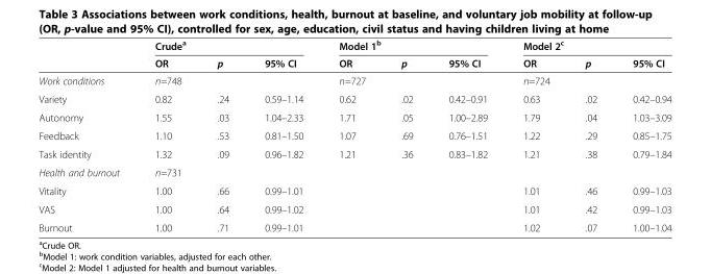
<table><thead><tr><td rowspan="2"></td><td colspan="3">Crude<sup>a</sup></td><td colspan="3">Model 1<sup>b</sup></td><td colspan="3">Model 2<sup>c</sup></td></tr><tr><td>OR</td><td>p</td><td>95% CI</td><td>OR</td><td>p</td><td>95% CI</td><td>OR</td><td>p</td><td>95% CI</td></tr></thead><tbody><tr><td>Work conditions</td><td>n=748</td><td></td><td></td><td>n=727</td><td></td><td></td><td>n=724</td><td></td><td></td></tr><tr><td>Variety</td><td>0.82</td><td>.24</td><td>0.59–1.14</td><td>0.62</td><td>.02</td><td>0.42–0.91</td><td>0.63</td><td>.02</td><td>0.42–0.94</td></tr><tr><td>Autonomy</td><td>1.55</td><td>.03</td><td>1.04–2.33</td><td>1.71</td><td>.05</td><td>1.00–2.89</td><td>1.79</td><td>.04</td><td>1.03–3.09</td></tr><tr><td>Feedback</td><td>1.10</td><td>.53</td><td>0.81–1.50</td><td>1.07</td><td>.69</td><td>0.76–1.51</td><td>1.22</td><td>.29</td><td>0.85–1.75</td></tr><tr><td>Task identity</td><td>1.32</td><td>.09</td><td>0.96–1.82</td><td>1.21</td><td>.36</td><td>0.83–1.82</td><td>1.21</td><td>.38</td><td>0.79–1.84</td></tr><tr><td>Health and burnout</td><td>n=731</td><td></td><td></td><td></td><td></td><td></td><td></td><td></td><td></td></tr><tr><td>Vitality</td><td>1.00</td><td>.66</td><td>0.99–1.01</td><td></td><td></td><td></td><td>1.01</td><td>.46</td><td>0.99–1.03</td></tr><tr><td>VAS</td><td>1.00</td><td>.64</td><td>0.99–1.02</td><td></td><td></td><td></td><td>1.01</td><td>.42</td><td>0.99–1.03</td></tr><tr><td>Burnout</td><td>1.00</td><td>.71</td><td>0.99–1.01</td><td></td><td></td><td></td><td>1.02</td><td>.07</td><td>1.00–1.04</td></tr></tbody></table>